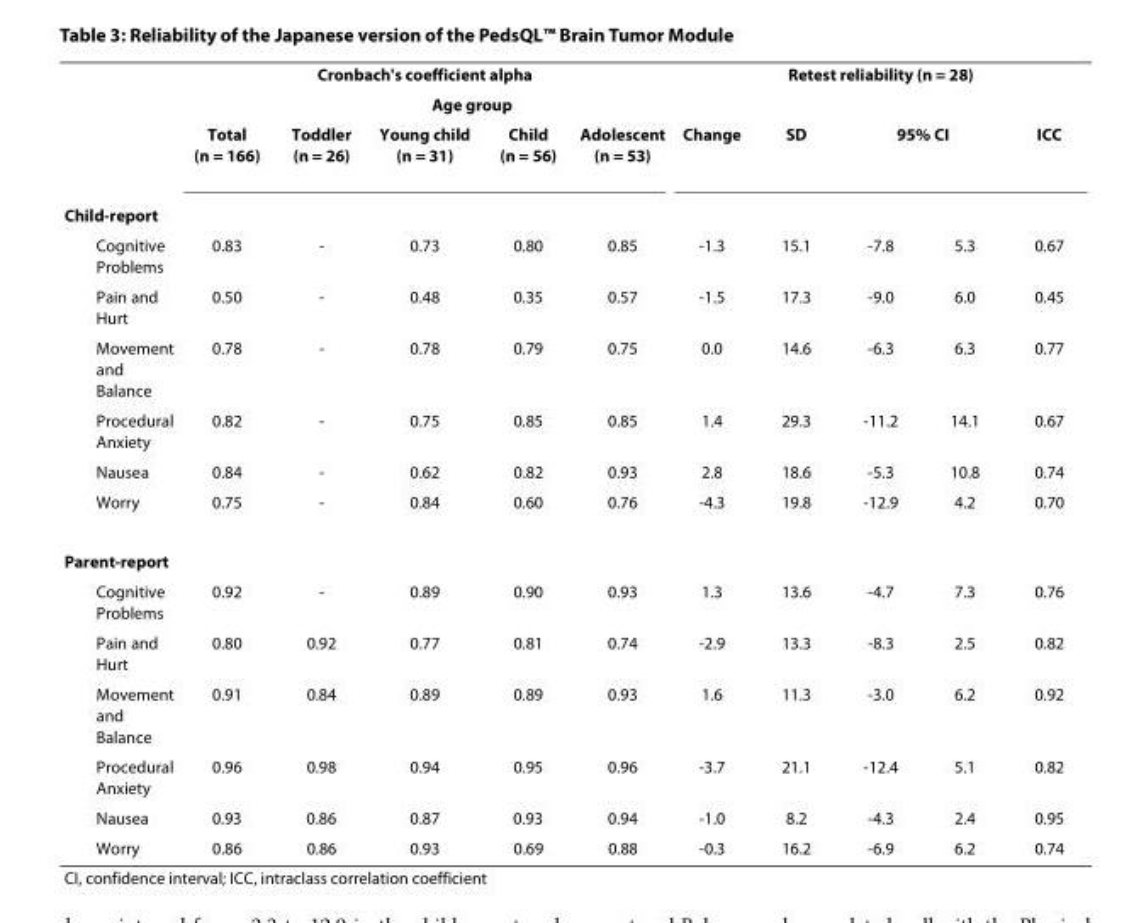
<table><thead><tr><td rowspan="3"></td><td colspan="5">Cronbach&#x27;s coefficient alpha</td><td colspan="5">Retest reliability (n = 28)</td></tr><tr><td rowspan="2">Total (n = 166)</td><td colspan="4">Age group</td><td rowspan="2">Change</td><td rowspan="2">SD</td><td></td><td></td><td rowspan="2">ICC</td></tr><tr><td>Toddler (n = 26)</td><td>Young child (n = 31)</td><td>Child (n = 56)</td><td>Adolescent (n = 53)</td><td colspan="2">95% CI</td></tr></thead><tbody><tr><td colspan="11">Child-report</td></tr><tr><td>Cognitive Problems</td><td>0.83</td><td>-</td><td>0.73</td><td>0.80</td><td>0.85</td><td>-1.3</td><td>15.1</td><td>-7.8</td><td>5.3</td><td>0.67</td></tr><tr><td>Pain and Hurt</td><td>0.50</td><td>-</td><td>0.48</td><td>0.35</td><td>0.57</td><td>-1.5</td><td>17.3</td><td>-9.0</td><td>6.0</td><td>0.45</td></tr><tr><td>Movement and Balance</td><td>0.78</td><td>-</td><td>0.78</td><td>0.79</td><td>0.75</td><td>0.0</td><td>14.6</td><td>-6.3</td><td>6.3</td><td>0.77</td></tr><tr><td>Procedural Anxiety</td><td>0.82</td><td>-</td><td>0.75</td><td>0.85</td><td>0.85</td><td>1.4</td><td>29.3</td><td>-11.2</td><td>14.1</td><td>0.67</td></tr><tr><td>Nausea</td><td>0.84</td><td>-</td><td>0.62</td><td>0.82</td><td>0.93</td><td>2.8</td><td>18.6</td><td>-5.3</td><td>10.8</td><td>0.74</td></tr><tr><td>Worry</td><td>0.75</td><td>-</td><td>0.84</td><td>0.60</td><td>0.76</td><td>-4.3</td><td>19.8</td><td>-12.9</td><td>4.2</td><td>0.70</td></tr><tr><td colspan="11">Parent-report</td></tr><tr><td>Cognitive Problems</td><td>0.92</td><td>-</td><td>0.89</td><td>0.90</td><td>0.93</td><td>1.3</td><td>13.6</td><td>-4.7</td><td>7.3</td><td>0.76</td></tr><tr><td>Pain and Hurt</td><td>0.80</td><td>0.92</td><td>0.77</td><td>0.81</td><td>0.74</td><td>-2.9</td><td>13.3</td><td>-8.3</td><td>2.5</td><td>0.82</td></tr><tr><td>Movement and Balance</td><td>0.91</td><td>0.84</td><td>0.89</td><td>0.89</td><td>0.93</td><td>1.6</td><td>11.3</td><td>-3.0</td><td>6.2</td><td>0.92</td></tr><tr><td>Procedural Anxiety</td><td>0.96</td><td>0.98</td><td>0.94</td><td>0.95</td><td>0.96</td><td>-3.7</td><td>21.1</td><td>-12.4</td><td>5.1</td><td>0.82</td></tr><tr><td>Nausea</td><td>0.93</td><td>0.86</td><td>0.87</td><td>0.93</td><td>0.94</td><td>-1.0</td><td>8.2</td><td>-4.3</td><td>2.4</td><td>0.95</td></tr><tr><td>Worry</td><td>0.86</td><td>0.86</td><td>0.93</td><td>0.69</td><td>0.88</td><td>-0.3</td><td>16.2</td><td>-6.9</td><td>6.2</td><td>0.74</td></tr></tbody></table>